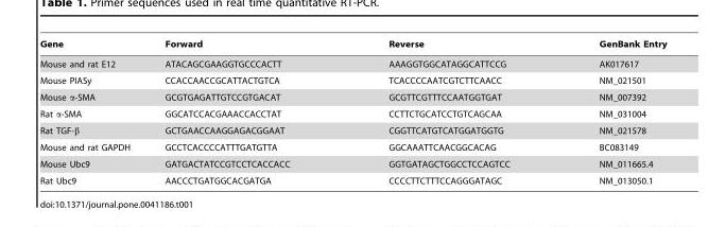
<table><thead><tr><td>Gene</td><td>Forward</td><td>Reverse</td><td>GenBank Entry</td></tr></thead><tbody><tr><td>Mouse and rat E12</td><td>ATACAGCGAAGGTGCCCACTT</td><td>AAAGGTGGCATAGGCATTCCG</td><td>AK017617</td></tr><tr><td>Mouse PIASy</td><td>CCACCAACCGCATTACTGTCA</td><td>TCACCCCAATCGTCTTCAACC</td><td>NM_021501</td></tr><tr><td>Mouse α-SMA</td><td>GCGTGAGATTGTCCGTGACAT</td><td>GCGTTCGTTTCCAATGGTGAT</td><td>NM_007392</td></tr><tr><td>Rat α-SMA</td><td>GGCATCCACGAAACCACCTAT</td><td>CCTTCTGCATCCTGTCAGCAA</td><td>NM_031004</td></tr><tr><td>Rat TGF-β</td><td>GCTGAACCAAGGAGACGGAAT</td><td>CGGTTCATGTCATGGATGGTG</td><td>NM_021578</td></tr><tr><td>Mouse and rat GAPDH</td><td>GCCTCACCCCATTTGATGTTA</td><td>GGCAAATTCAACGGCACAG</td><td>BC083149</td></tr><tr><td>Mouse Ubc9</td><td>GATGACTATCCGTCCTCACCACC</td><td>GGTGATAGCTGGCCTCCAGTCC</td><td>NM_011665.4</td></tr><tr><td>Rat Ubc9</td><td>AACCCTGATGGCACGATGA</td><td>CCCCTTCTTTCCAGGGATAGC</td><td>NM_013050.1</td></tr></tbody></table>